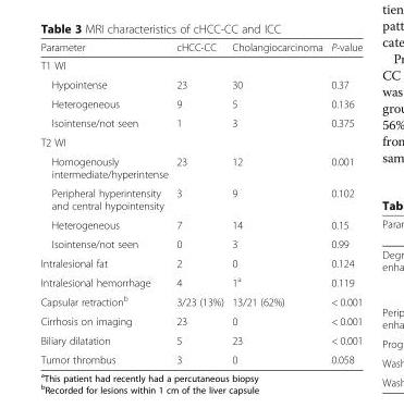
<table><thead><tr><td>Parameter</td><td>cHCC-CC</td><td>Cholangiocarcinoma</td><td>P-value</td></tr></thead><tbody><tr><td colspan="4">T1 WI</td></tr><tr><td>Hypointense</td><td>23</td><td>30</td><td>0.37</td></tr><tr><td>Heterogeneous</td><td>9</td><td>5</td><td>0.136</td></tr><tr><td>Isointense/not seen</td><td>1</td><td>3</td><td>0.375</td></tr><tr><td colspan="4">T2 WI</td></tr><tr><td>Homogenously intermediate/hyperintense</td><td>23</td><td>12</td><td>0.001</td></tr><tr><td>Peripheral hyperintensity and central hypointensity</td><td>3</td><td>9</td><td>0.102</td></tr><tr><td>Heterogeneous</td><td>7</td><td>14</td><td>0.15</td></tr><tr><td>Isointense/not seen</td><td>0</td><td>3</td><td>0.99</td></tr><tr><td>Intralesional fat</td><td>2</td><td>0</td><td>0.124</td></tr><tr><td>Intralesional hemorrhage</td><td>4</td><td>1<sup>a</sup></td><td>0.119</td></tr><tr><td>Capsular retraction<sup>b</sup></td><td>3/23 (13%)</td><td>13/21 (62%)</td><td>&lt; 0.001</td></tr><tr><td>Cirrhosis on imaging</td><td>23</td><td>0</td><td>&lt; 0.001</td></tr><tr><td>Biliary dilatation</td><td>5</td><td>23</td><td>&lt; 0.001</td></tr><tr><td>Tumor thrombus</td><td>3</td><td>0</td><td>0.058</td></tr></tbody></table>